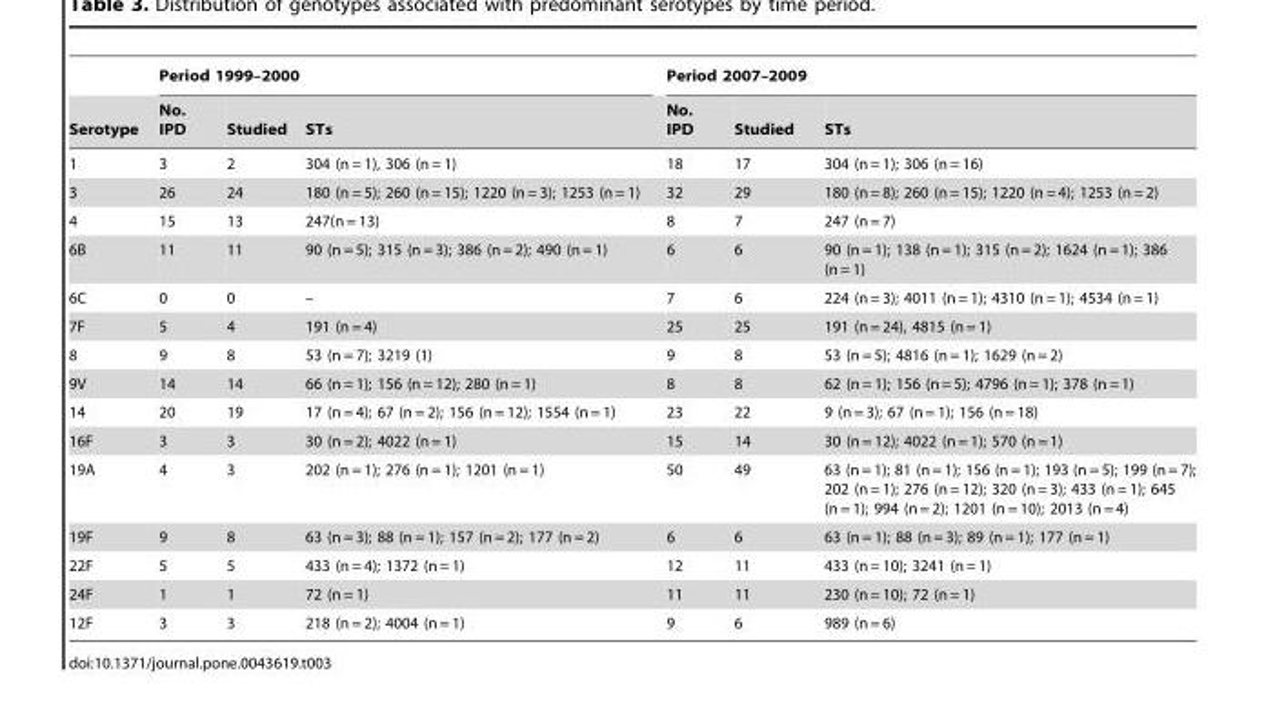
<table><thead><tr><td rowspan="2">Serotype</td><td colspan="3">Period 1999–2000</td><td colspan="3">Period 2007–2009</td></tr><tr><td>No. IPD</td><td>Studied</td><td>STs</td><td>No. IPD</td><td>Studied</td><td>STs</td></tr></thead><tbody><tr><td>1</td><td>3</td><td>2</td><td>304 (n = 1), 306 (n = 1)</td><td>18</td><td>17</td><td>304 (n = 1); 306 (n = 16)</td></tr><tr><td>3</td><td>26</td><td>24</td><td>180 (n = 5); 260 (n = 15); 1220 (n = 3); 1253 (n = 1)</td><td>32</td><td>29</td><td>180 (n = 8); 260 (n = 15); 1220 (n = 4); 1253 (n = 2)</td></tr><tr><td>4</td><td>15</td><td>13</td><td>247(n = 13)</td><td>8</td><td>7</td><td>247 (n = 7)</td></tr><tr><td>6B</td><td>11</td><td>11</td><td>90 (n = 5); 315 (n = 3); 386 (n = 2); 490 (n = 1)</td><td>6</td><td>6</td><td>90 (n = 1); 138 (n = 1); 315 (n = 2); 1624 (n = 1); 386 (n = 1)</td></tr><tr><td>6C</td><td>0</td><td>0</td><td>–</td><td>7</td><td>6</td><td>224 (n = 3); 4011 (n = 1); 4310 (n = 1); 4534 (n = 1)</td></tr><tr><td>7F</td><td>5</td><td>4</td><td>191 (n = 4)</td><td>25</td><td>25</td><td>191 (n = 24), 4815 (n = 1)</td></tr><tr><td>8</td><td>9</td><td>8</td><td>53 (n = 7); 3219 (1)</td><td>9</td><td>8</td><td>53 (n = 5); 4816 (n = 1); 1629 (n = 2)</td></tr><tr><td>9V</td><td>14</td><td>14</td><td>66 (n = 1); 156 (n = 12); 280 (n = 1)</td><td>8</td><td>8</td><td>62 (n = 1); 156 (n = 5); 4796 (n = 1); 378 (n = 1)</td></tr><tr><td>14</td><td>20</td><td>19</td><td>17 (n = 4); 67 (n = 2); 156 (n = 12); 1554 (n = 1)</td><td>23</td><td>22</td><td>9 (n = 3); 67 (n = 1); 156 (n = 18)</td></tr><tr><td>16F</td><td>3</td><td>3</td><td>30 (n = 2); 4022 (n = 1)</td><td>15</td><td>14</td><td>30 (n = 12); 4022 (n = 1); 570 (n = 1)</td></tr><tr><td>19A</td><td>4</td><td>3</td><td>202 (n = 1); 276 (n = 1); 1201 (n = 1)</td><td>50</td><td>49</td><td>63 (n = 1); 81 (n = 1); 156 (n = 1); 193 (n = 5); 199 (n = 7); 202 (n = 1); 276 (n = 12); 320 (n = 3); 433 (n = 1); 645 (n = 1); 994 (n = 2); 1201 (n = 10); 2013 (n = 4)</td></tr><tr><td>19F</td><td>9</td><td>8</td><td>63 (n = 3); 88 (n = 1); 157 (n = 2); 177 (n = 2)</td><td>6</td><td>6</td><td>63 (n = 1); 88 (n = 3); 89 (n = 1); 177 (n = 1)</td></tr><tr><td>22F</td><td>5</td><td>5</td><td>433 (n = 4); 1372 (n = 1)</td><td>12</td><td>11</td><td>433 (n = 10); 3241 (n = 1)</td></tr><tr><td>24F</td><td>1</td><td>1</td><td>72 (n = 1)</td><td>11</td><td>11</td><td>230 (n = 10); 72 (n = 1)</td></tr><tr><td>12F</td><td>3</td><td>3</td><td>218 (n = 2); 4004 (n = 1)</td><td>9</td><td>6</td><td>989 (n = 6)</td></tr></tbody></table>